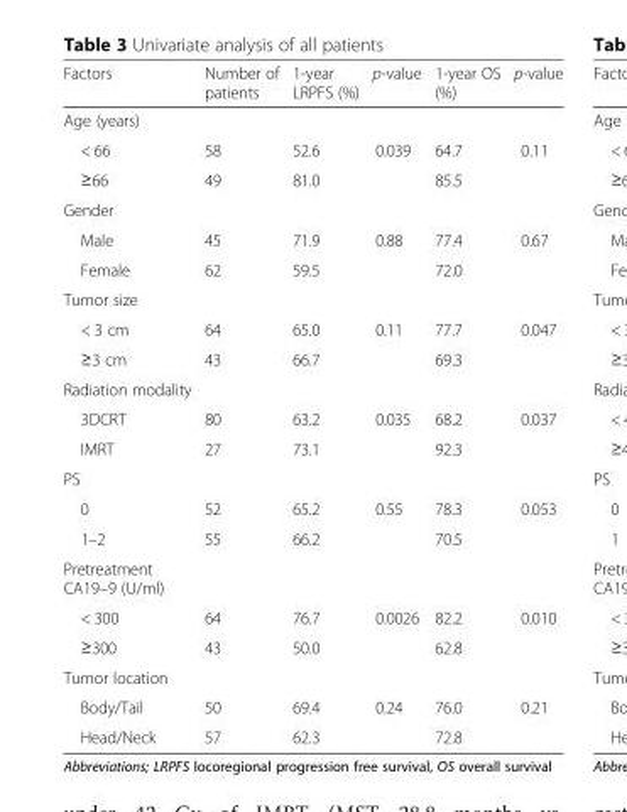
<table><thead><tr><td>Factors</td><td>Number of patients</td><td>1-year LRPFS (%)</td><td>p-value</td><td>1-year OS (%)</td><td>p-value</td></tr></thead><tbody><tr><td colspan="6">Age (years)</td></tr><tr><td>&lt; 66</td><td>58</td><td>52.6</td><td>0.039</td><td>64.7</td><td>0.11</td></tr><tr><td>≥66</td><td>49</td><td>81.0</td><td></td><td>85.5</td><td></td></tr><tr><td colspan="6">Gender</td></tr><tr><td>Male</td><td>45</td><td>71.9</td><td>0.88</td><td>77.4</td><td>0.67</td></tr><tr><td>Female</td><td>62</td><td>59.5</td><td></td><td>72.0</td><td></td></tr><tr><td colspan="6">Tumor size</td></tr><tr><td>&lt; 3 cm</td><td>64</td><td>65.0</td><td>0.11</td><td>77.7</td><td>0.047</td></tr><tr><td>≥3 cm</td><td>43</td><td>66.7</td><td></td><td>69.3</td><td></td></tr><tr><td colspan="6">Radiation modality</td></tr><tr><td>3DCRT</td><td>80</td><td>63.2</td><td>0.035</td><td>68.2</td><td>0.037</td></tr><tr><td>IMRT</td><td>27</td><td>73.1</td><td></td><td>92.3</td><td></td></tr><tr><td colspan="6">PS</td></tr><tr><td>0</td><td>52</td><td>65.2</td><td>0.55</td><td>78.3</td><td>0.053</td></tr><tr><td>1–2</td><td>55</td><td>66.2</td><td></td><td>70.5</td><td></td></tr><tr><td colspan="6">Pretreatment CA19–9 (U/ml)</td></tr><tr><td>&lt; 300</td><td>64</td><td>76.7</td><td>0.0026</td><td>82.2</td><td>0.010</td></tr><tr><td>≥300</td><td>43</td><td>50.0</td><td></td><td>62.8</td><td></td></tr><tr><td colspan="6">Tumor location</td></tr><tr><td>Body/Tail</td><td>50</td><td>69.4</td><td>0.24</td><td>76.0</td><td>0.21</td></tr><tr><td>Head/Neck</td><td>57</td><td>62.3</td><td></td><td>72.8</td><td></td></tr></tbody></table>